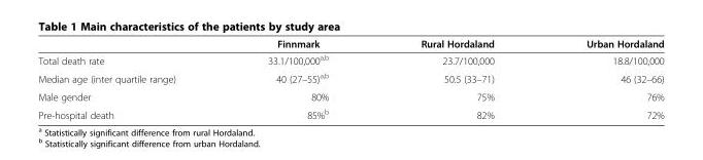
<table><thead><tr><td></td><td>Finnmark</td><td>Rural Hordaland</td><td>Urban Hordaland</td></tr></thead><tbody><tr><td>Total death rate</td><td>33.1/100,000<sup>a,b</sup></td><td>23.7/100,000</td><td>18.8/100,000</td></tr><tr><td>Median age (inter quartile range)</td><td>40 (27–55)<sup>a,b</sup></td><td>50.5 (33–71)</td><td>46 (32–66)</td></tr><tr><td>Male gender</td><td>80%</td><td>75%</td><td>76%</td></tr><tr><td>Pre-hospital death</td><td>85%<sup>b</sup></td><td>82%</td><td>72%</td></tr></tbody></table>